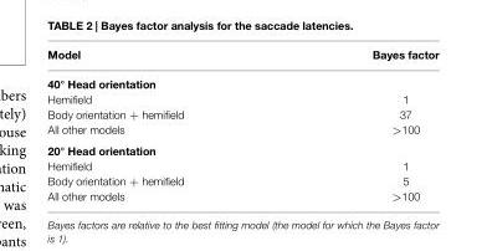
<table><thead><tr><td>Model</td><td>Bayes factor</td></tr></thead><tbody><tr><td colspan="2">40° Head orientation</td></tr><tr><td>Hemifield</td><td>1</td></tr><tr><td>Body orientation + hemifield</td><td>37</td></tr><tr><td>All other models</td><td>&gt;100</td></tr><tr><td colspan="2">20° Head orientation</td></tr><tr><td>Hemifield</td><td>1</td></tr><tr><td>Body orientation + hemifield</td><td>5</td></tr><tr><td>All other models</td><td>&gt;100</td></tr></tbody></table>